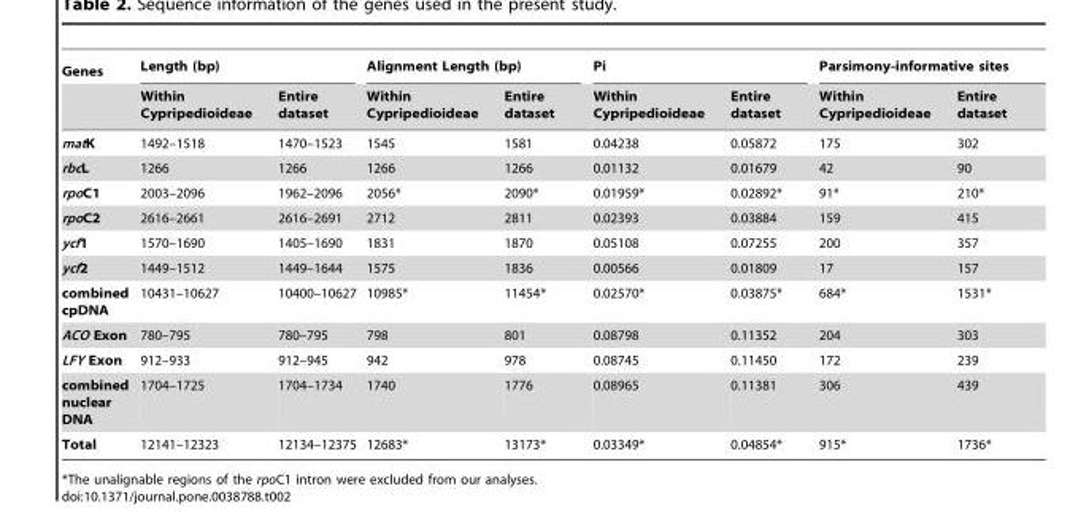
<table><thead><tr><td rowspan="2">Genes</td><td colspan="2">Length (bp)</td><td colspan="2">Alignment Length (bp)</td><td colspan="2">Pi</td><td colspan="2">Parsimony-informative sites</td></tr><tr><td>Within Cypripedioideae</td><td>Entire dataset</td><td>Within Cypripedioideae</td><td>Entire dataset</td><td>Within Cypripedioideae</td><td>Entire dataset</td><td>Within Cypripedioideae</td><td>Entire dataset</td></tr></thead><tbody><tr><td>matK</td><td>1492–1518</td><td>1470–1523</td><td>1545</td><td>1581</td><td>0.04238</td><td>0.05872</td><td>175</td><td>302</td></tr><tr><td>rbcL</td><td>1266</td><td>1266</td><td>1266</td><td>1266</td><td>0.01132</td><td>0.01679</td><td>42</td><td>90</td></tr><tr><td>rpoC1</td><td>2003–2096</td><td>1962–2096</td><td>2056*</td><td>2090*</td><td>0.01959*</td><td>0.02892*</td><td>91*</td><td>210*</td></tr><tr><td>rpoC2</td><td>2616–2661</td><td>2616–2691</td><td>2712</td><td>2811</td><td>0.02393</td><td>0.03884</td><td>159</td><td>415</td></tr><tr><td>ycf1</td><td>1570–1690</td><td>1405–1690</td><td>1831</td><td>1870</td><td>0.05108</td><td>0.07255</td><td>200</td><td>357</td></tr><tr><td>ycf2</td><td>1449–1512</td><td>1449–1644</td><td>1575</td><td>1836</td><td>0.00566</td><td>0.01809</td><td>17</td><td>157</td></tr><tr><td>combined cpDNA</td><td>10431–10627</td><td>10400–10627</td><td>10985*</td><td>11454*</td><td>0.02570*</td><td>0.03875*</td><td>684*</td><td>1531*</td></tr><tr><td>ACO Exon</td><td>780–795</td><td>780–795</td><td>798</td><td>801</td><td>0.08798</td><td>0.11352</td><td>204</td><td>303</td></tr><tr><td>LFY Exon</td><td>912–933</td><td>912–945</td><td>942</td><td>978</td><td>0.08745</td><td>0.11450</td><td>172</td><td>239</td></tr><tr><td>combined nuclear DNA</td><td>1704–1725</td><td>1704–1734</td><td>1740</td><td>1776</td><td>0.08965</td><td>0.11381</td><td>306</td><td>439</td></tr><tr><td>Total</td><td>12141–12323</td><td>12134–12375</td><td>12683*</td><td>13173*</td><td>0.03349*</td><td>0.04854*</td><td>915*</td><td>1736*</td></tr></tbody></table>